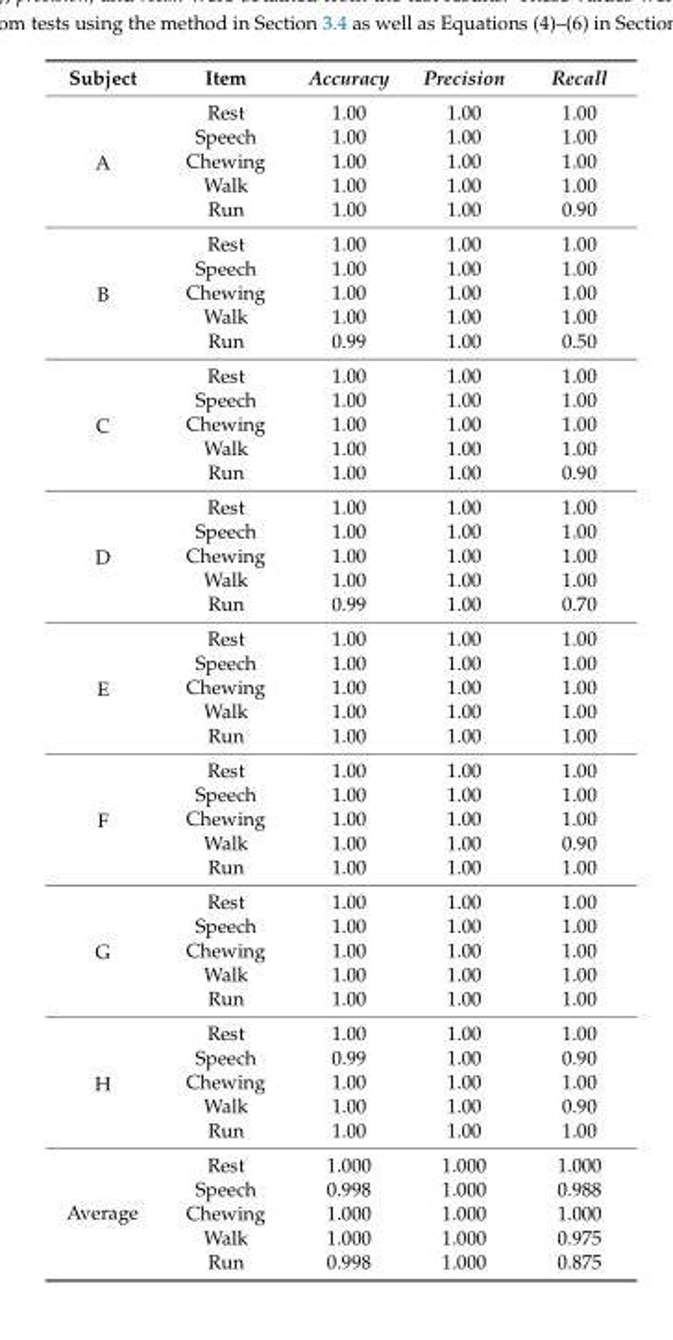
<table><thead><tr><td>Subject</td><td>Item</td><td>Accuracy</td><td>Precision</td><td>Recall</td></tr></thead><tbody><tr><td rowspan="5">A</td><td>Rest</td><td>1.00</td><td>1.00</td><td>1.00</td></tr><tr><td>Speech</td><td>1.00</td><td>1.00</td><td>1.00</td></tr><tr><td>Chewing</td><td>1.00</td><td>1.00</td><td>1.00</td></tr><tr><td>Walk</td><td>1.00</td><td>1.00</td><td>1.00</td></tr><tr><td>Run</td><td>1.00</td><td>1.00</td><td>0.90</td></tr><tr><td rowspan="5">B</td><td>Rest</td><td>1.00</td><td>1.00</td><td>1.00</td></tr><tr><td>Speech</td><td>1.00</td><td>1.00</td><td>1.00</td></tr><tr><td>Chewing</td><td>1.00</td><td>1.00</td><td>1.00</td></tr><tr><td>Walk</td><td>1.00</td><td>1.00</td><td>1.00</td></tr><tr><td>Run</td><td>0.99</td><td>1.00</td><td>0.50</td></tr><tr><td rowspan="5">C</td><td>Rest</td><td>1.00</td><td>1.00</td><td>1.00</td></tr><tr><td>Speech</td><td>1.00</td><td>1.00</td><td>1.00</td></tr><tr><td>Chewing</td><td>1.00</td><td>1.00</td><td>1.00</td></tr><tr><td>Walk</td><td>1.00</td><td>1.00</td><td>1.00</td></tr><tr><td>Run</td><td>1.00</td><td>1.00</td><td>0.90</td></tr><tr><td rowspan="5">D</td><td>Rest</td><td>1.00</td><td>1.00</td><td>1.00</td></tr><tr><td>Speech</td><td>1.00</td><td>1.00</td><td>1.00</td></tr><tr><td>Chewing</td><td>1.00</td><td>1.00</td><td>1.00</td></tr><tr><td>Walk</td><td>1.00</td><td>1.00</td><td>1.00</td></tr><tr><td>Run</td><td>0.99</td><td>1.00</td><td>0.70</td></tr><tr><td rowspan="5">E</td><td>Rest</td><td>1.00</td><td>1.00</td><td>1.00</td></tr><tr><td>Speech</td><td>1.00</td><td>1.00</td><td>1.00</td></tr><tr><td>Chewing</td><td>1.00</td><td>1.00</td><td>1.00</td></tr><tr><td>Walk</td><td>1.00</td><td>1.00</td><td>1.00</td></tr><tr><td>Run</td><td>1.00</td><td>1.00</td><td>1.00</td></tr><tr><td rowspan="5">F</td><td>Rest</td><td>1.00</td><td>1.00</td><td>1.00</td></tr><tr><td>Speech</td><td>1.00</td><td>1.00</td><td>1.00</td></tr><tr><td>Chewing</td><td>1.00</td><td>1.00</td><td>1.00</td></tr><tr><td>Walk</td><td>1.00</td><td>1.00</td><td>0.90</td></tr><tr><td>Run</td><td>1.00</td><td>1.00</td><td>1.00</td></tr><tr><td rowspan="5">G</td><td>Rest</td><td>1.00</td><td>1.00</td><td>1.00</td></tr><tr><td>Speech</td><td>1.00</td><td>1.00</td><td>1.00</td></tr><tr><td>Chewing</td><td>1.00</td><td>1.00</td><td>1.00</td></tr><tr><td>Walk</td><td>1.00</td><td>1.00</td><td>1.00</td></tr><tr><td>Run</td><td>1.00</td><td>1.00</td><td>1.00</td></tr><tr><td rowspan="5">H</td><td>Rest</td><td>1.00</td><td>1.00</td><td>1.00</td></tr><tr><td>Speech</td><td>0.99</td><td>1.00</td><td>0.90</td></tr><tr><td>Chewing</td><td>1.00</td><td>1.00</td><td>1.00</td></tr><tr><td>Walk</td><td>1.00</td><td>1.00</td><td>0.90</td></tr><tr><td>Run</td><td>1.00</td><td>1.00</td><td>1.00</td></tr><tr><td rowspan="5">Average</td><td>Rest</td><td>1.000</td><td>1.000</td><td>1.000</td></tr><tr><td>Speech</td><td>0.998</td><td>1.000</td><td>0.988</td></tr><tr><td>Chewing</td><td>1.000</td><td>1.000</td><td>1.000</td></tr><tr><td>Walk</td><td>1.000</td><td>1.000</td><td>0.975</td></tr><tr><td>Run</td><td>0.998</td><td>1.000</td><td>0.875</td></tr></tbody></table>